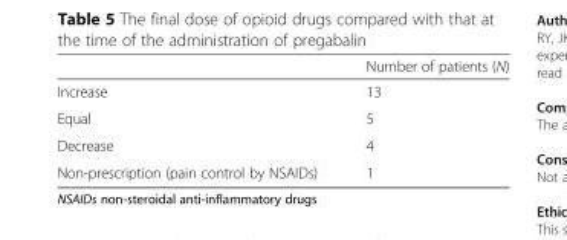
<table><thead><tr><td></td><td>Number of patients (N)</td></tr></thead><tbody><tr><td>Increase</td><td>13</td></tr><tr><td>Equal</td><td>5</td></tr><tr><td>Decrease</td><td>4</td></tr><tr><td>Non-prescription (pain control by NSAIDs)</td><td>1</td></tr></tbody></table>